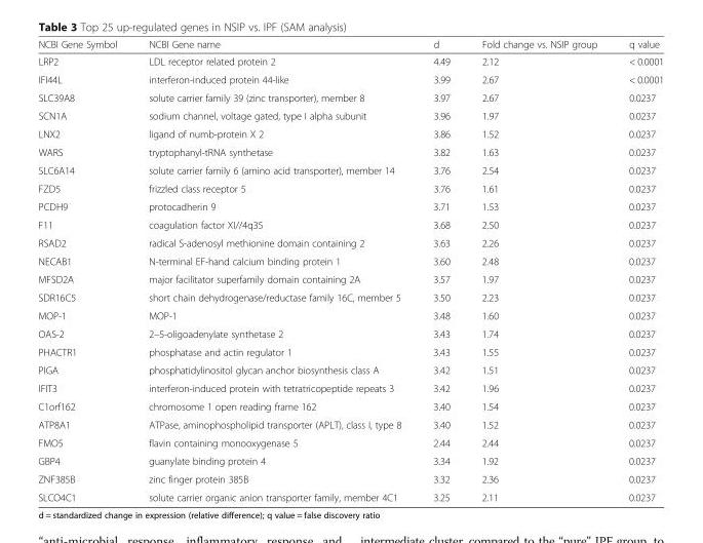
<table><thead><tr><td>NCBI Gene Symbol</td><td>NCBI Gene name</td><td>d</td><td>Fold change vs. NSIP group</td><td>q value</td></tr></thead><tbody><tr><td>LRP2</td><td>LDL receptor related protein 2</td><td>4.49</td><td>2.12</td><td>&lt; 0.0001</td></tr><tr><td>IFI44L</td><td>interferon-induced protein 44-like</td><td>3.99</td><td>2.67</td><td>&lt; 0.0001</td></tr><tr><td>SLC39A8</td><td>solute carrier family 39 (zinc transporter), member 8</td><td>3.97</td><td>2.67</td><td>0.0237</td></tr><tr><td>SCN1A</td><td>sodium channel, voltage gated, type I alpha subunit</td><td>3.96</td><td>1.97</td><td>0.0237</td></tr><tr><td>LNX2</td><td>ligand of numb-protein X 2</td><td>3.86</td><td>1.52</td><td>0.0237</td></tr><tr><td>WARS</td><td>tryptophanyl-tRNA synthetase</td><td>3.82</td><td>1.63</td><td>0.0237</td></tr><tr><td>SLC6A14</td><td>solute carrier family 6 (amino acid transporter), member 14</td><td>3.76</td><td>2.54</td><td>0.0237</td></tr><tr><td>FZD5</td><td>frizzled class receptor 5</td><td>3.76</td><td>1.61</td><td>0.0237</td></tr><tr><td>PCDH9</td><td>protocadherin 9</td><td>3.71</td><td>1.53</td><td>0.0237</td></tr><tr><td>F11</td><td>coagulation factor XI//4q35</td><td>3.68</td><td>2.50</td><td>0.0237</td></tr><tr><td>RSAD2</td><td>radical S-adenosyl methionine domain containing 2</td><td>3.63</td><td>2.26</td><td>0.0237</td></tr><tr><td>NECAB1</td><td>N-terminal EF-hand calcium binding protein 1</td><td>3.60</td><td>2.48</td><td>0.0237</td></tr><tr><td>MFSD2A</td><td>major facilitator superfamily domain containing 2A</td><td>3.57</td><td>1.97</td><td>0.0237</td></tr><tr><td>SDR16C5</td><td>short chain dehydrogenase/reductase family 16C, member 5</td><td>3.50</td><td>2.23</td><td>0.0237</td></tr><tr><td>MOP-1</td><td>MOP-1</td><td>3.48</td><td>1.60</td><td>0.0237</td></tr><tr><td>OAS-2</td><td>2–5-oligoadenylate synthetase 2</td><td>3.43</td><td>1.74</td><td>0.0237</td></tr><tr><td>PHACTR1</td><td>phosphatase and actin regulator 1</td><td>3.43</td><td>1.55</td><td>0.0237</td></tr><tr><td>PIGA</td><td>phosphatidylinositol glycan anchor biosynthesis class A</td><td>3.42</td><td>1.51</td><td>0.0237</td></tr><tr><td>IFIT3</td><td>interferon-induced protein with tetratricopeptide repeats 3</td><td>3.42</td><td>1.96</td><td>0.0237</td></tr><tr><td>C1orf162</td><td>chromosome 1 open reading frame 162</td><td>3.40</td><td>1.54</td><td>0.0237</td></tr><tr><td>ATP8A1</td><td>ATPase, aminophospholipid transporter (APLT), class I, type 8</td><td>3.40</td><td>1.52</td><td>0.0237</td></tr><tr><td>FMO5</td><td>flavin containing monooxygenase 5</td><td>2.44</td><td>2.44</td><td>0.0237</td></tr><tr><td>GBP4</td><td>guanylate binding protein 4</td><td>3.34</td><td>1.92</td><td>0.0237</td></tr><tr><td>ZNF385B</td><td>zinc finger protein 385B</td><td>3.32</td><td>2.36</td><td>0.0237</td></tr><tr><td>SLCO4C1</td><td>solute carrier organic anion transporter family, member 4C1</td><td>3.25</td><td>2.11</td><td>0.0237</td></tr></tbody></table>